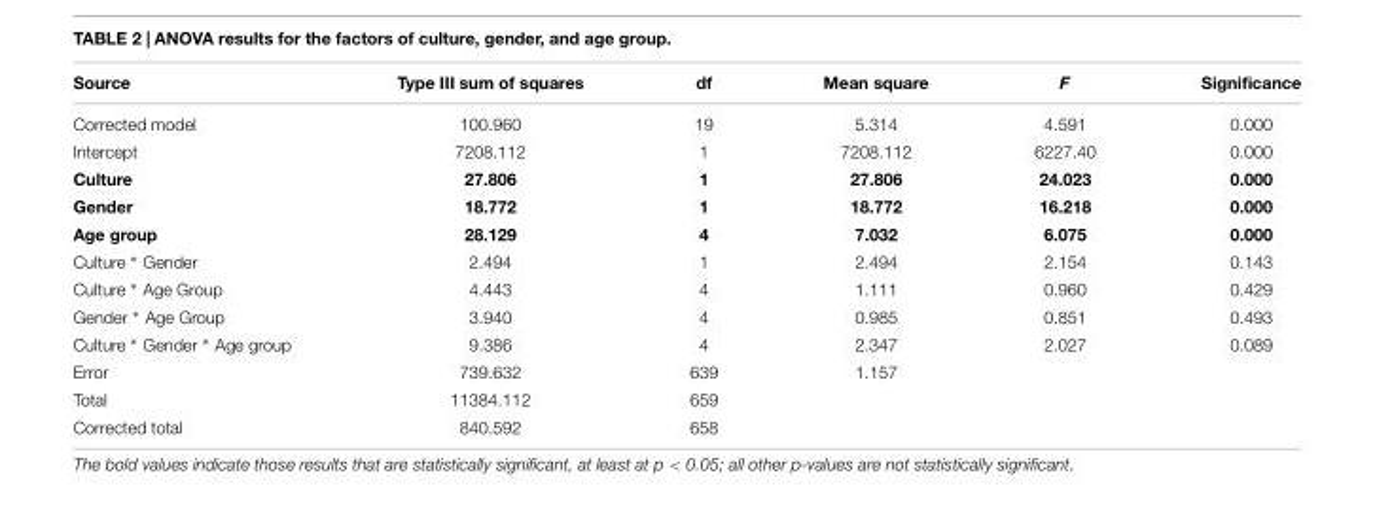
<table><thead><tr><td>Source</td><td>Type III sum of squares</td><td>df</td><td>Mean square</td><td>F</td><td>Significance</td></tr></thead><tbody><tr><td>Corrected model</td><td>100.960</td><td>19</td><td>5.314</td><td>4.591</td><td>0.000</td></tr><tr><td>Intercept</td><td>7208.112</td><td>1</td><td>7208.112</td><td>6227.40</td><td>0.000</td></tr><tr><td>Culture</td><td>27.806</td><td>1</td><td>27.806</td><td>24.023</td><td>0.000</td></tr><tr><td>Gender</td><td>18.772</td><td>1</td><td>18.772</td><td>16.218</td><td>0.000</td></tr><tr><td>Age group</td><td>28.129</td><td>4</td><td>7.032</td><td>6.075</td><td>0.000</td></tr><tr><td>Culture ∗ Gender</td><td>2.494</td><td>1</td><td>2.494</td><td>2.154</td><td>0.143</td></tr><tr><td>Culture ∗ Age Group</td><td>4.443</td><td>4</td><td>1.111</td><td>0.960</td><td>0.429</td></tr><tr><td>Gender ∗ Age Group</td><td>3.940</td><td>4</td><td>0.985</td><td>0.851</td><td>0.493</td></tr><tr><td>Culture ∗ Gender ∗ Age group</td><td>9.386</td><td>4</td><td>2.347</td><td>2.027</td><td>0.089</td></tr><tr><td>Error</td><td>739.632</td><td>639</td><td>1.157</td><td></td><td></td></tr><tr><td>Total</td><td>11384.112</td><td>659</td><td></td><td></td><td></td></tr><tr><td>Corrected total</td><td>840.592</td><td>658</td><td></td><td></td><td></td></tr></tbody></table>